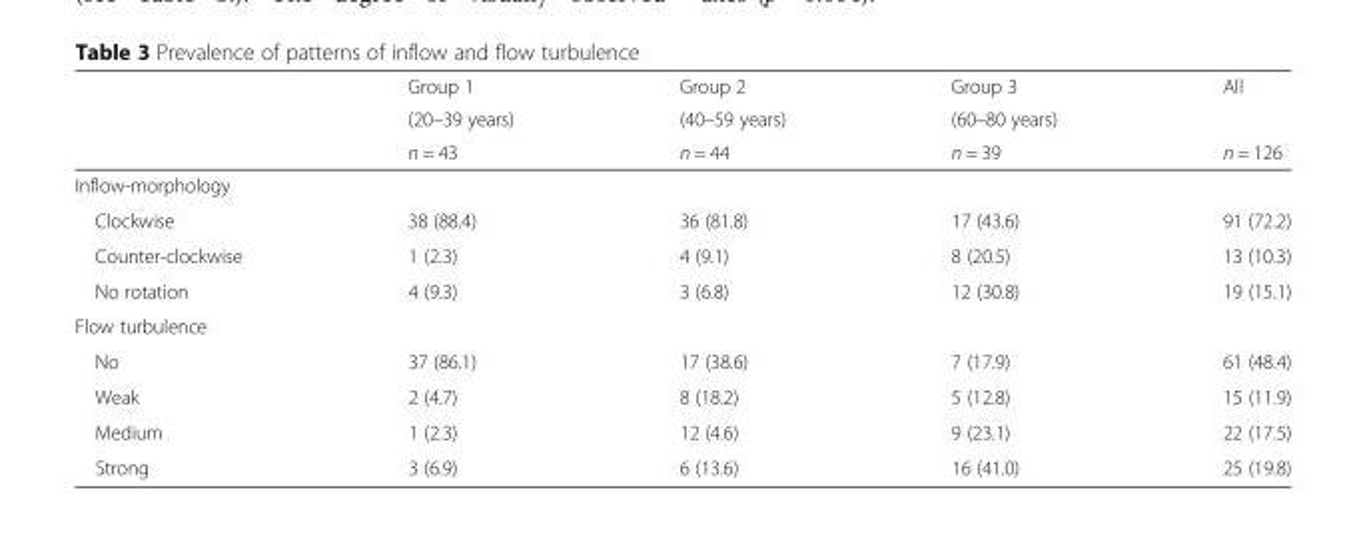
<table><thead><tr><td rowspan="3"></td><td rowspan="3">Group 1 (20–39 years) n = 43</td><td rowspan="3">Group 2 (40–59 years) n = 44</td><td rowspan="3">Group 3 (60–80 years) n = 39</td><td rowspan="3">All n = 126</td></tr><tr></tr><tr></tr></thead><tbody><tr><td colspan="5">Inflow-morphology</td></tr><tr><td>Clockwise</td><td>38 (88.4)</td><td>36 (81.8)</td><td>17 (43.6)</td><td>91 (72.2)</td></tr><tr><td>Counter-clockwise</td><td>1 (2.3)</td><td>4 (9.1)</td><td>8 (20.5)</td><td>13 (10.3)</td></tr><tr><td>No rotation</td><td>4 (9.3)</td><td>3 (6.8)</td><td>12 (30.8)</td><td>19 (15.1)</td></tr><tr><td colspan="5">Flow turbulence</td></tr><tr><td>No</td><td>37 (86.1)</td><td>17 (38.6)</td><td>7 (17.9)</td><td>61 (48.4)</td></tr><tr><td>Weak</td><td>2 (4.7)</td><td>8 (18.2)</td><td>5 (12.8)</td><td>15 (11.9)</td></tr><tr><td>Medium</td><td>1 (2.3)</td><td>12 (4.6)</td><td>9 (23.1)</td><td>22 (17.5)</td></tr><tr><td>Strong</td><td>3 (6.9)</td><td>6 (13.6)</td><td>16 (41.0)</td><td>25 (19.8)</td></tr></tbody></table>